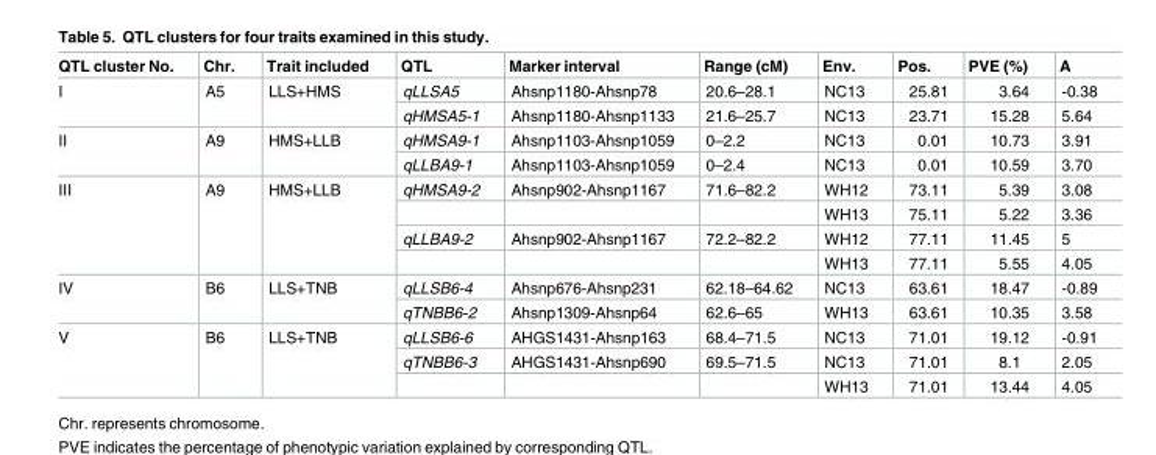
<table><thead><tr><td>QTL cluster No.</td><td>Chr.</td><td>Trait included</td><td>QTL</td><td>Marker interval</td><td>Range (cM)</td><td>Env.</td><td>Pos.</td><td>PVE (%)</td><td>A</td></tr></thead><tbody><tr><td rowspan="2">I</td><td rowspan="2">A5</td><td rowspan="2">LLS+HMS</td><td>qLLSA5</td><td>Ahsnp1180-Ahsnp78</td><td>20.6–28.1</td><td>NC13</td><td>25.81</td><td>3.64</td><td>-0.38</td></tr><tr><td>qHMSA5-1</td><td>Ahsnp1180-Ahsnp1133</td><td>21.6–25.7</td><td>NC13</td><td>23.71</td><td>15.28</td><td>5.64</td></tr><tr><td rowspan="2">II</td><td rowspan="2">A9</td><td rowspan="2">HMS+LLB</td><td>qHMSA9-1</td><td>Ahsnp1103-Ahsnp1059</td><td>0–2.2</td><td>NC13</td><td>0.01</td><td>10.73</td><td>3.91</td></tr><tr><td>qLLBA9-1</td><td>Ahsnp1103-Ahsnp1059</td><td>0–2.4</td><td>NC13</td><td>0.01</td><td>10.59</td><td>3.70</td></tr><tr><td rowspan="4">III</td><td rowspan="4">A9</td><td rowspan="4">HMS+LLB</td><td>qHMSA9-2</td><td>Ahsnp902-Ahsnp1167</td><td>71.6–82.2</td><td>WH12</td><td>73.11</td><td>5.39</td><td>3.08</td></tr><tr><td></td><td></td><td></td><td>WH13</td><td>75.11</td><td>5.22</td><td>3.36</td></tr><tr><td>qLLBA9-2</td><td>Ahsnp902-Ahsnp1167</td><td>72.2–82.2</td><td>WH12</td><td>77.11</td><td>11.45</td><td>5</td></tr><tr><td></td><td></td><td></td><td>WH13</td><td>77.11</td><td>5.55</td><td>4.05</td></tr><tr><td rowspan="2">IV</td><td rowspan="2">B6</td><td rowspan="2">LLS+TNB</td><td>qLLSB6-4</td><td>Ahsnp676-Ahsnp231</td><td>62.18–64.62</td><td>NC13</td><td>63.61</td><td>18.47</td><td>-0.89</td></tr><tr><td>qTNBB6-2</td><td>Ahsnp1309-Ahsnp64</td><td>62.6–65</td><td>WH13</td><td>63.61</td><td>10.35</td><td>3.58</td></tr><tr><td rowspan="3">V</td><td rowspan="3">B6</td><td rowspan="3">LLS+TNB</td><td>qLLSB6-6</td><td>AHGS1431-Ahsnp163</td><td>68.4–71.5</td><td>NC13</td><td>71.01</td><td>19.12</td><td>-0.91</td></tr><tr><td>qTNBB6-3</td><td>AHGS1431-Ahsnp690</td><td>69.5–71.5</td><td>NC13</td><td>71.01</td><td>8.1</td><td>2.05</td></tr><tr><td></td><td></td><td></td><td>WH13</td><td>71.01</td><td>13.44</td><td>4.05</td></tr></tbody></table>